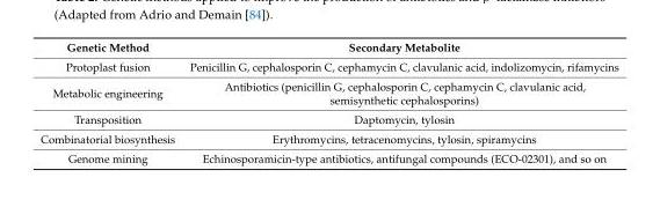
<table><thead><tr><td>Genetic Method</td><td>Secondary Metabolite</td></tr></thead><tbody><tr><td>Protoplast fusion</td><td>Penicillin G, cephalosporin C, cephamycin C, clavulanic acid, indolizomycin, rifamycins</td></tr><tr><td>Metabolic engineering</td><td>Antibiotics (penicillin G, cephalosporin C, cephamycin C, clavulanic acid, semisynthetic cephalosporins)</td></tr><tr><td>Transposition</td><td>Daptomycin, tylosin</td></tr><tr><td>Combinatorial biosynthesis</td><td>Erythromycins, tetracenomycins, tylosin, spiramycins</td></tr><tr><td>Genome mining</td><td>Echinosporamicin-type antibiotics, antifungal compounds (ECO-02301), and so on</td></tr></tbody></table>